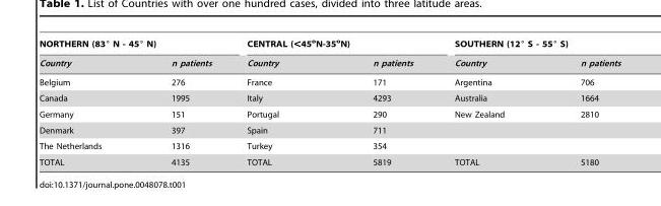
<table><thead><tr><td colspan="2">NORTHERN (83° N - 45° N)</td><td colspan="2">CENTRAL (&lt;45<sup>o</sup>N-35<sup>o</sup>N)</td><td colspan="2">SOUTHERN (12° S - 55° S)</td></tr><tr><td>Country</td><td>n patients</td><td>Country</td><td>n patients</td><td>Country</td><td>n patients</td></tr></thead><tbody><tr><td>Belgium</td><td>276</td><td>France</td><td>171</td><td>Argentina</td><td>706</td></tr><tr><td>Canada</td><td>1995</td><td>Italy</td><td>4293</td><td>Australia</td><td>1664</td></tr><tr><td>Germany</td><td>151</td><td>Portugal</td><td>290</td><td>New Zealand</td><td>2810</td></tr><tr><td>Denmark</td><td>397</td><td>Spain</td><td>711</td><td></td><td></td></tr><tr><td>The Netherlands</td><td>1316</td><td>Turkey</td><td>354</td><td></td><td></td></tr><tr><td>TOTAL</td><td>4135</td><td>TOTAL</td><td>5819</td><td>TOTAL</td><td>5180</td></tr></tbody></table>